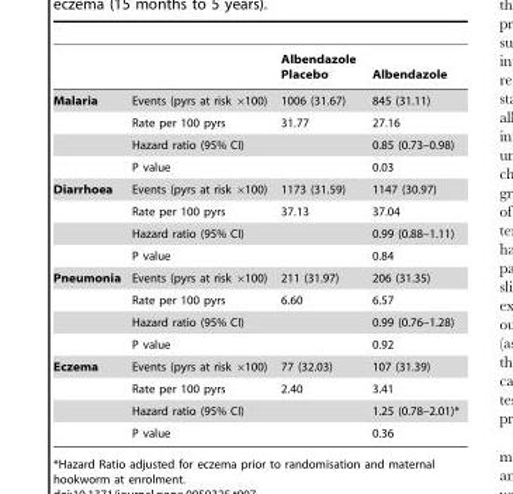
<table><thead><tr><td></td><td></td><td>Albendazole Placebo</td><td>Albendazole</td></tr></thead><tbody><tr><td rowspan="4">Malaria</td><td>Events (pyrs at risk ×100)</td><td>1006 (31.67)</td><td>845 (31.11)</td></tr><tr><td>Rate per 100 pyrs</td><td>31.77</td><td>27.16</td></tr><tr><td>Hazard ratio (95% CI)</td><td></td><td>0.85 (0.73–0.98)</td></tr><tr><td>P value</td><td></td><td>0.03</td></tr><tr><td rowspan="4">Diarrhoea</td><td>Events (pyrs at risk ×100)</td><td>1173 (31.59)</td><td>1147 (30.97)</td></tr><tr><td>Rate per 100 pyrs</td><td>37.13</td><td>37.04</td></tr><tr><td>Hazard ratio (95% CI)</td><td></td><td>0.99 (0.88–1.11)</td></tr><tr><td>P value</td><td></td><td>0.84</td></tr><tr><td rowspan="4">Pneumonia</td><td>Events (pyrs at risk ×100)</td><td>211 (31.97)</td><td>206 (31.35)</td></tr><tr><td>Rate per 100 pyrs</td><td>6.60</td><td>6.57</td></tr><tr><td>Hazard ratio (95% CI)</td><td></td><td>0.99 (0.76–1.28)</td></tr><tr><td>P value</td><td></td><td>0.92</td></tr><tr><td rowspan="4">Eczema</td><td>Events (pyrs at risk ×100)</td><td>77 (32.03)</td><td>107 (31.39)</td></tr><tr><td>Rate per 100 pyrs</td><td>2.40</td><td>3.41</td></tr><tr><td>Hazard ratio (95% CI)</td><td></td><td>1.25 (0.78–2.01)*</td></tr><tr><td>P value</td><td></td><td>0.36</td></tr></tbody></table>